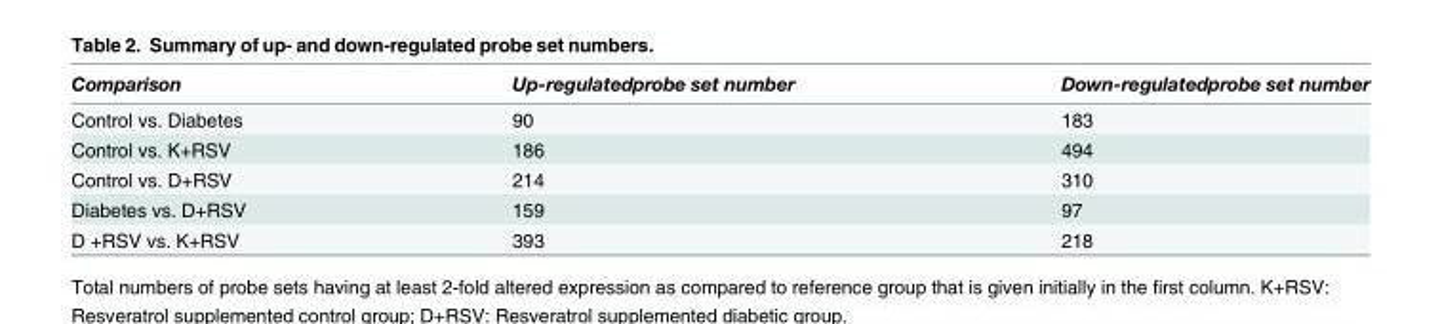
<table><thead><tr><td>Comparison</td><td>Up-regulatedprobe set number</td><td>Down-regulatedprobe set number</td></tr></thead><tbody><tr><td>Control vs. Diabetes</td><td>90</td><td>183</td></tr><tr><td>Control vs. K+RSV</td><td>186</td><td>494</td></tr><tr><td>Control vs. D+RSV</td><td>214</td><td>310</td></tr><tr><td>Diabetes vs. D+RSV</td><td>159</td><td>97</td></tr><tr><td>D +RSV vs. K+RSV</td><td>393</td><td>218</td></tr></tbody></table>